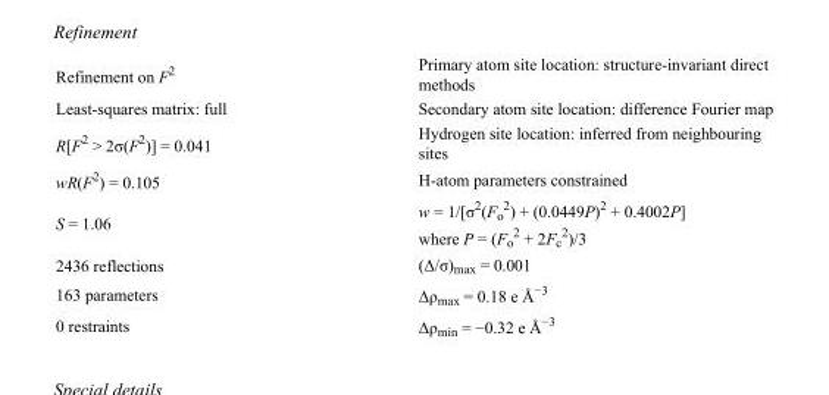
<table><tbody><tr><td>Refinement on F<sup>2</sup></td><td>Primary atom site location: structure-invariant direct methods</td></tr><tr><td>Least-squares matrix: full</td><td>Secondary atom site location: difference Fourier map</td></tr><tr><td>R[F<sup>2</sup> &gt; 2σ(F<sup>2</sup>)] = 0.041</td><td>Hydrogen site location: inferred from neighbouring sites</td></tr><tr><td>wR(F<sup>2</sup>) = 0.105</td><td>H-atom parameters constrained</td></tr><tr><td>S = 1.06</td><td>w = 1/[σ<sup>2</sup>(F<sub>o</sub> <sup>2</sup>) + (0.0449P)<sup>2</sup> + 0.4002P] where P = (F<sub>o</sub> <sup>2</sup> + 2F<sub>c</sub> <sup>2</sup>)/3</td></tr><tr><td>2436 reflections</td><td>(Δ/σ)<sub>max</sub> = 0.001</td></tr><tr><td>163 parameters</td><td>Δρ<sub>max</sub> = 0.18 e Å<sup>−3</sup></td></tr><tr><td>0 restraints</td><td>Δρ<sub>min</sub> = −0.32 e Å<sup>−3</sup></td></tr></tbody></table>